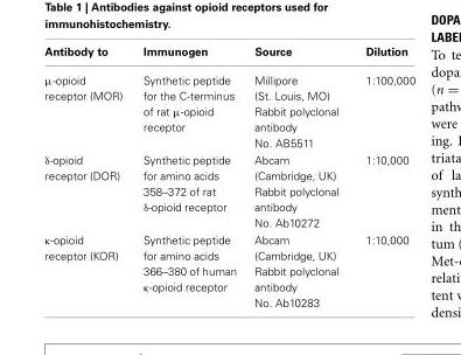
<table><thead><tr><td>Antibody to</td><td>Immunogen</td><td>Source</td><td>Dilution</td></tr></thead><tbody><tr><td>μ-opioid receptor (MOR)</td><td>Synthetic peptide for the C-terminus of rat μ-opioid receptor</td><td>Millipore (St. Louis, MO) Rabbit polyclonal antibody No. AB5511</td><td>1:100,000</td></tr><tr><td>δ-opioid receptor (DOR)</td><td>Synthetic peptide for amino acids 358–372 of rat δ-opioid receptor</td><td>Abcam (Cambridge, UK) Rabbit polyclonal antibody No. Ab10272</td><td>1:10,000</td></tr><tr><td>κ-opioid receptor (KOR)</td><td>Synthetic peptide for amino acids 366–380 of human κ-opioid receptor</td><td>Abcam (Cambridge, UK) Rabbit polyclonal antibody No. Ab10283</td><td>1:10,000</td></tr></tbody></table>